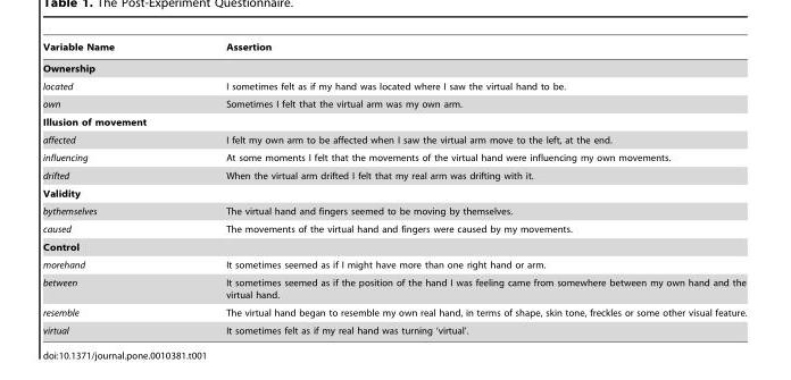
<table><thead><tr><td>Variable Name</td><td>Assertion</td></tr></thead><tbody><tr><td colspan="2">Ownership</td></tr><tr><td>located</td><td>I sometimes felt as if my hand was located where I saw the virtual hand to be.</td></tr><tr><td>own</td><td>Sometimes I felt that the virtual arm was my own arm.</td></tr><tr><td colspan="2">Illusion of movement</td></tr><tr><td>affected</td><td>I felt my own arm to be affected when I saw the virtual arm move to the left, at the end.</td></tr><tr><td>influencing</td><td>At some moments I felt that the movements of the virtual hand were influencing my own movements.</td></tr><tr><td>drifted</td><td>When the virtual arm drifted I felt that my real arm was drifting with it.</td></tr><tr><td colspan="2">Validity</td></tr><tr><td>bythemselves</td><td>The virtual hand and fingers seemed to be moving by themselves.</td></tr><tr><td>caused</td><td>The movements of the virtual hand and fingers were caused by my movements.</td></tr><tr><td colspan="2">Control</td></tr><tr><td>morehand</td><td>It sometimes seemed as if I might have more than one right hand or arm.</td></tr><tr><td>between</td><td>It sometimes seemed as if the position of the hand I was feeling came from somewhere between my own hand and the virtual hand.</td></tr><tr><td>resemble</td><td>The virtual hand began to resemble my own real hand, in terms of shape, skin tone, freckles or some other visual feature.</td></tr><tr><td>virtual</td><td>It sometimes felt as if my real hand was turning ‘virtual’.</td></tr></tbody></table>